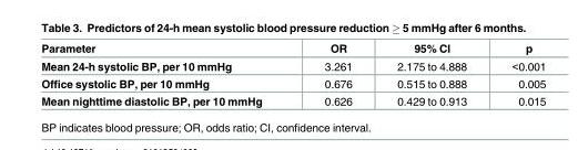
<table><thead><tr><td>Parameter</td><td>OR</td><td>95% CI</td><td>p</td></tr></thead><tbody><tr><td>Mean 24-h systolic BP, per 10 mmHg</td><td>3.261</td><td>2.175 to 4.888</td><td>&lt;0.001</td></tr><tr><td>Office systolic BP, per 10 mmHg</td><td>0.676</td><td>0.515 to 0.888</td><td>0.005</td></tr><tr><td>Mean nighttime diastolic BP, per 10 mmHg</td><td>0.626</td><td>0.429 to 0.913</td><td>0.015</td></tr></tbody></table>